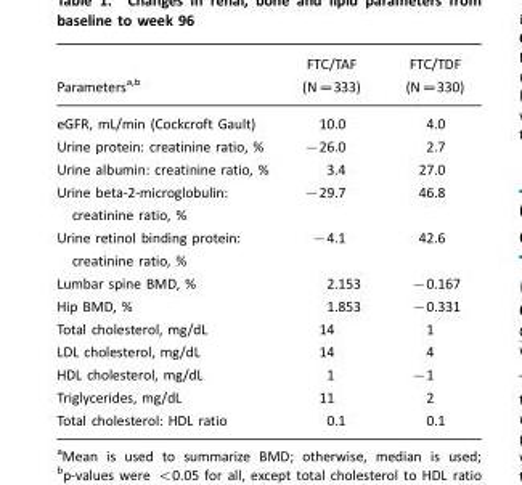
<table><thead><tr><td>Parametersa,b</td><td>FTC/TAF (N=333)</td><td>FTC/TDF (N=330)</td></tr></thead><tbody><tr><td>eGFR, mL/min (Cockcroft Gault)</td><td>10.0</td><td>4.0</td></tr><tr><td>Urine protein: creatinine ratio, %</td><td>−26.0</td><td>2.7</td></tr><tr><td>Urine albumin: creatinine ratio, %</td><td>3.4</td><td>27.0</td></tr><tr><td>Urine beta-2-microglobulin: creatinine ratio, %</td><td>−29.7</td><td>46.8</td></tr><tr><td>Urine retinol binding protein: creatinine ratio, %</td><td>−4.1</td><td>42.6</td></tr><tr><td>Lumbar spine BMD, %</td><td>2.153</td><td>−0.167</td></tr><tr><td>Hip BMD, %</td><td>1.853</td><td>−0.331</td></tr><tr><td>Total cholesterol, mg/dL</td><td>14</td><td>1</td></tr><tr><td>LDL cholesterol, mg/dL</td><td>14</td><td>4</td></tr><tr><td>HDL cholesterol, mg/dL</td><td>1</td><td>−1</td></tr><tr><td>Triglycerides, mg/dL</td><td>11</td><td>2</td></tr><tr><td>Total cholesterol: HDL ratio</td><td>0.1</td><td>0.1</td></tr></tbody></table>